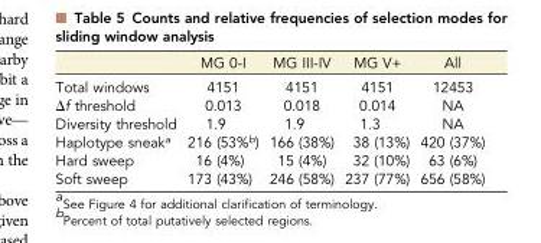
<table><thead><tr><td></td><td>MG 0-I</td><td>MG III-IV</td><td>MG V+</td><td>All</td></tr></thead><tbody><tr><td>Total windows</td><td>4151</td><td>4151</td><td>4151</td><td>12453</td></tr><tr><td>Δf threshold</td><td>0.013</td><td>0.018</td><td>0.014</td><td>NA</td></tr><tr><td>Diversity threshold</td><td>1.9</td><td>1.9</td><td>1.3</td><td>NA</td></tr><tr><td>Haplotype sneak<sup>a</sup></td><td>216 (53%<sup>b</sup>)</td><td>166 (38%)</td><td>38 (13%)</td><td>420 (37%)</td></tr><tr><td>Hard sweep</td><td>16 (4%)</td><td>15 (4%)</td><td>32 (10%)</td><td>63 (6%)</td></tr><tr><td>Soft sweep</td><td>173 (43%)</td><td>246 (58%)</td><td>237 (77%)</td><td>656 (58%)</td></tr></tbody></table>